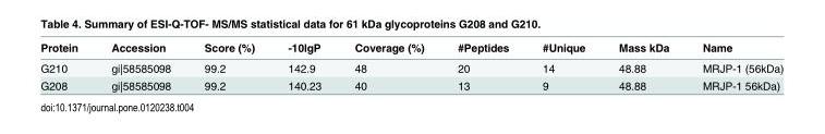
<table><thead><tr><td>Protein</td><td>Accession</td><td>Score (%)</td><td>-10lgP</td><td>Coverage (%)</td><td>#Peptides</td><td>#Unique</td><td>Mass kDa</td><td>Name</td></tr></thead><tbody><tr><td>G210</td><td>gi|58585098</td><td>99.2</td><td>142.9</td><td>48</td><td>20</td><td>14</td><td>48.88</td><td>MRJP-1 (56kDa)</td></tr><tr><td>G208</td><td>gi|58585098</td><td>99.2</td><td>140.23</td><td>40</td><td>13</td><td>9</td><td>48.88</td><td>MRJP-1 56kDa)</td></tr></tbody></table>